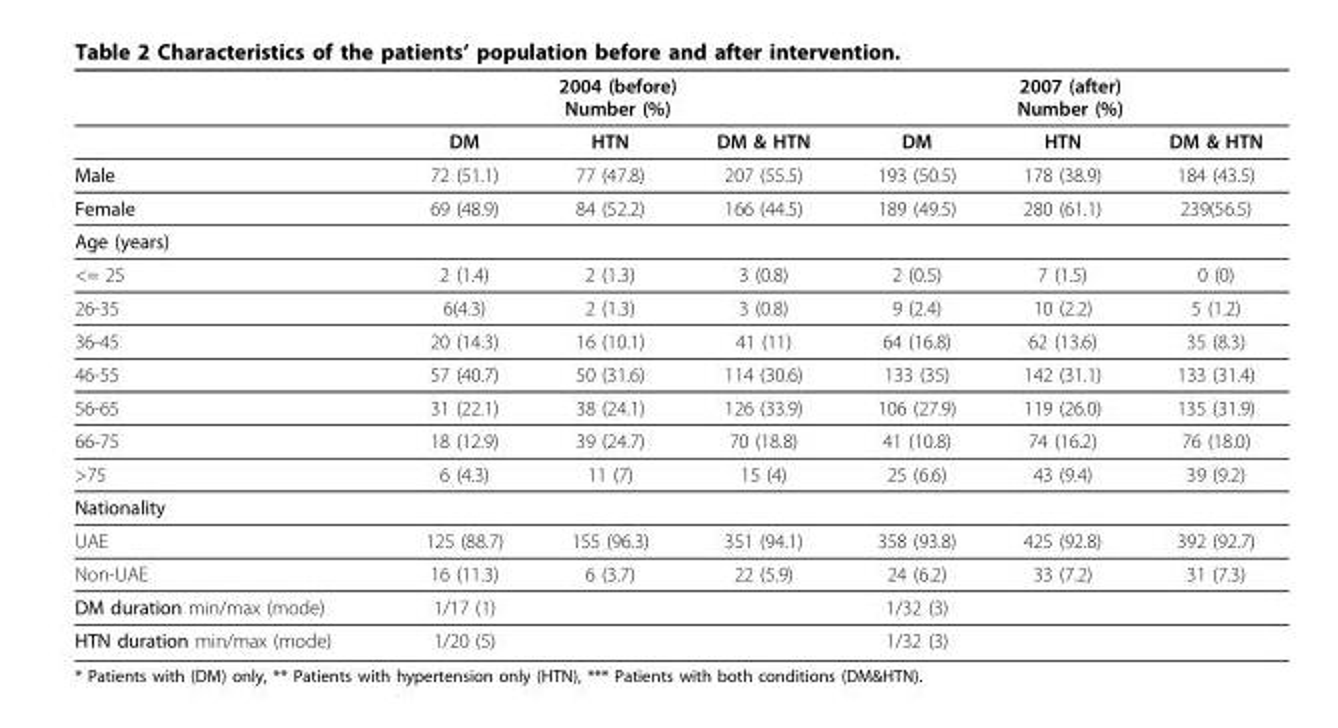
<table><thead><tr><td rowspan="2"></td><td colspan="3">2004 (before) Number (%)</td><td colspan="3">2007 (after) Number (%)</td></tr><tr><td>DM</td><td>HTN</td><td>DM &amp; HTN</td><td>DM</td><td>HTN</td><td>DM &amp; HTN</td></tr></thead><tbody><tr><td>Male</td><td>72 (51.1)</td><td>77 (47.8)</td><td>207 (55.5)</td><td>193 (50.5)</td><td>178 (38.9)</td><td>184 (43.5)</td></tr><tr><td>Female</td><td>69 (48.9)</td><td>84 (52.2)</td><td>166 (44.5)</td><td>189 (49.5)</td><td>280 (61.1)</td><td>239(56.5)</td></tr><tr><td colspan="7">Age (years)</td></tr><tr><td>&lt;= 25</td><td>2 (1.4)</td><td>2 (1.3)</td><td>3 (0.8)</td><td>2 (0.5)</td><td>7 (1.5)</td><td>0 (0)</td></tr><tr><td>26-35</td><td>6(4.3)</td><td>2 (1.3)</td><td>3 (0.8)</td><td>9 (2.4)</td><td>10 (2.2)</td><td>5 (1.2)</td></tr><tr><td>36-45</td><td>20 (14.3)</td><td>16 (10.1)</td><td>41 (11)</td><td>64 (16.8)</td><td>62 (13.6)</td><td>35 (8.3)</td></tr><tr><td>46-55</td><td>57 (40.7)</td><td>50 (31.6)</td><td>114 (30.6)</td><td>133 (35)</td><td>142 (31.1)</td><td>133 (31.4)</td></tr><tr><td>56-65</td><td>31 (22.1)</td><td>38 (24.1)</td><td>126 (33.9)</td><td>106 (27.9)</td><td>119 (26.0)</td><td>135 (31.9)</td></tr><tr><td>66-75</td><td>18 (12.9)</td><td>39 (24.7)</td><td>70 (18.8)</td><td>41 (10.8)</td><td>74 (16.2)</td><td>76 (18.0)</td></tr><tr><td>&gt;75</td><td>6 (4.3)</td><td>11 (7)</td><td>15 (4)</td><td>25 (6.6)</td><td>43 (9.4)</td><td>39 (9.2)</td></tr><tr><td colspan="7">Nationality</td></tr><tr><td>UAE</td><td>125 (88.7)</td><td>155 (96.3)</td><td>351 (94.1)</td><td>358 (93.8)</td><td>425 (92.8)</td><td>392 (92.7)</td></tr><tr><td>Non-UAE</td><td>16 (11.3)</td><td>6 (3.7)</td><td>22 (5.9)</td><td>24 (6.2)</td><td>33 (7.2)</td><td>31 (7.3)</td></tr><tr><td>DM duration min/max (mode)</td><td>1/17 (1)</td><td></td><td></td><td>1/32 (3)</td><td></td><td></td></tr><tr><td>HTN duration min/max (mode)</td><td>1/20 (5)</td><td></td><td></td><td>1/32 (3)</td><td></td><td></td></tr></tbody></table>